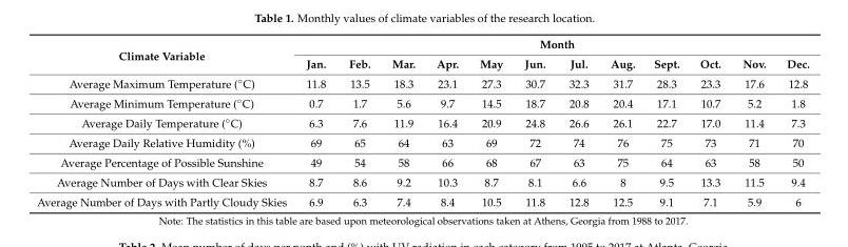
<table><thead><tr><td rowspan="2">Climate Variable</td><td colspan="12">Month</td></tr><tr><td>Jan.</td><td>Feb.</td><td>Mar.</td><td>Apr.</td><td>May</td><td>Jun.</td><td>Jul.</td><td>Aug.</td><td>Sept.</td><td>Oct.</td><td>Nov.</td><td>Dec.</td></tr></thead><tbody><tr><td>Average Maximum Temperature (◦C)</td><td>11.8</td><td>13.5</td><td>18.3</td><td>23.1</td><td>27.3</td><td>30.7</td><td>32.3</td><td>31.7</td><td>28.3</td><td>23.3</td><td>17.6</td><td>12.8</td></tr><tr><td>Average Minimum Temperature (◦C)</td><td>0.7</td><td>1.7</td><td>5.6</td><td>9.7</td><td>14.5</td><td>18.7</td><td>20.8</td><td>20.4</td><td>17.1</td><td>10.7</td><td>5.2</td><td>1.8</td></tr><tr><td>Average Daily Temperature (◦C)</td><td>6.3</td><td>7.6</td><td>11.9</td><td>16.4</td><td>20.9</td><td>24.8</td><td>26.6</td><td>26.1</td><td>22.7</td><td>17.0</td><td>11.4</td><td>7.3</td></tr><tr><td>Average Daily Relative Humidity (%)</td><td>69</td><td>65</td><td>64</td><td>63</td><td>69</td><td>72</td><td>74</td><td>76</td><td>75</td><td>73</td><td>71</td><td>70</td></tr><tr><td>Average Percentage of Possible Sunshine</td><td>49</td><td>54</td><td>58</td><td>66</td><td>68</td><td>67</td><td>63</td><td>75</td><td>64</td><td>63</td><td>58</td><td>50</td></tr><tr><td>Average Number of Days with Clear Skies</td><td>8.7</td><td>8.6</td><td>9.2</td><td>10.3</td><td>8.7</td><td>8.1</td><td>6.6</td><td>8</td><td>9.5</td><td>13.3</td><td>11.5</td><td>9.4</td></tr><tr><td>Average Number of Days with Partly Cloudy Skies</td><td>6.9</td><td>6.3</td><td>7.4</td><td>8.4</td><td>10.5</td><td>11.8</td><td>12.8</td><td>12.5</td><td>9.1</td><td>7.1</td><td>5.9</td><td>6</td></tr></tbody></table>